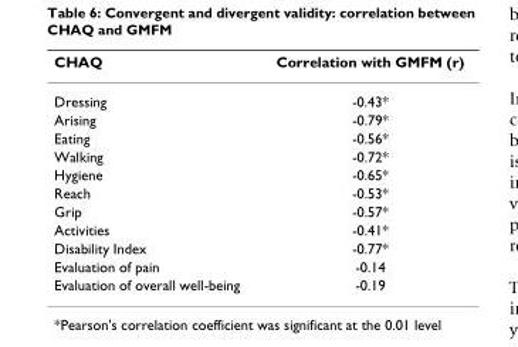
<table><thead><tr><td>CHAQ</td><td>Correlation with GMFM (r)</td></tr></thead><tbody><tr><td>Dressing</td><td>-0.43*</td></tr><tr><td>Arising</td><td>-0.79*</td></tr><tr><td>Eating</td><td>-0.56*</td></tr><tr><td>Walking</td><td>-0.72*</td></tr><tr><td>Hygiene</td><td>-0.65*</td></tr><tr><td>Reach</td><td>-0.53*</td></tr><tr><td>Grip</td><td>-0.57*</td></tr><tr><td>Activities</td><td>-0.41*</td></tr><tr><td>Disability Index</td><td>-0.77*</td></tr><tr><td>Evaluation of pain</td><td>-0.14</td></tr><tr><td>Evaluation of overall well-being</td><td>-0.19</td></tr></tbody></table>